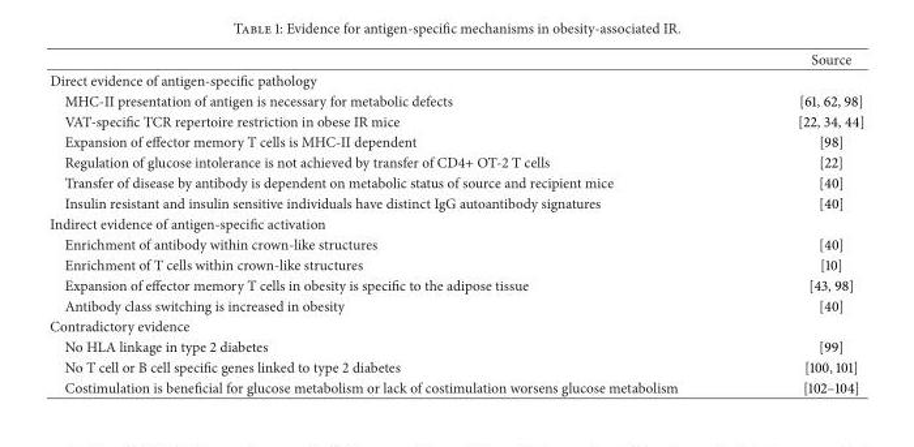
<table><thead><tr><td></td><td>Source</td></tr></thead><tbody><tr><td colspan="2">Direct evidence of antigen-specific pathology</td></tr><tr><td>MHC-II presentation of antigen is necessary for metabolic defects</td><td>[61, 62, 98]</td></tr><tr><td>VAT-specific TCR repertoire restriction in obese IR mice</td><td>[22, 34, 44]</td></tr><tr><td>Expansion of effector memory T cells is MHC-II dependent</td><td>[98]</td></tr><tr><td>Regulation of glucose intolerance is not achieved by transfer of CD4+ OT-2 T cells</td><td>[22]</td></tr><tr><td>Transfer of disease by antibody is dependent on metabolic status of source and recipient mice</td><td>[40]</td></tr><tr><td>Insulin resistant and insulin sensitive individuals have distinct IgG autoantibody signatures</td><td>[40]</td></tr><tr><td colspan="2">Indirect evidence of antigen-specific activation</td></tr><tr><td>Enrichment of antibody within crown-like structures</td><td>[40]</td></tr><tr><td>Enrichment of T cells within crown-like structures</td><td>[10]</td></tr><tr><td>Expansion of effector memory T cells in obesity is specific to the adipose tissue</td><td>[43, 98]</td></tr><tr><td>Antibody class switching is increased in obesity</td><td>[40]</td></tr><tr><td colspan="2">Contradictory evidence</td></tr><tr><td>No HLA linkage in type 2 diabetes</td><td>[99]</td></tr><tr><td>No T cell or B cell specific genes linked to type 2 diabetes</td><td>[100, 101]</td></tr><tr><td>Costimulation is beneficial for glucose metabolism or lack of costimulation worsens glucose metabolism</td><td>[102–104]</td></tr></tbody></table>